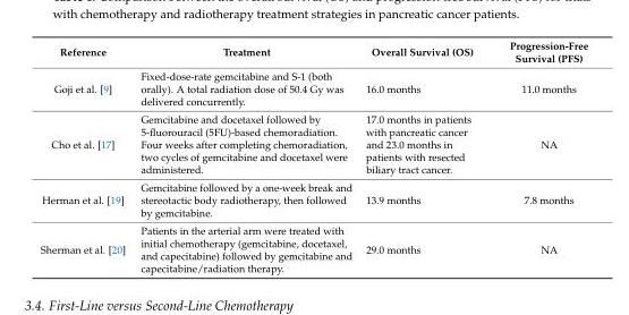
<table><thead><tr><td>Reference</td><td>Treatment</td><td>Overall Survival (OS)</td><td>Progression-Free Survival (PFS)</td></tr></thead><tbody><tr><td>Goji et al. [9]</td><td>Fixed-dose-rate gemcitabine and S-1 (both orally). A total radiation dose of 50.4 Gy was delivered concurrently.</td><td>16.0 months</td><td>11.0 months</td></tr><tr><td>Cho et al. [17]</td><td>Gemcitabine and docetaxel followed by 5-fluorouracil (5FU)-based chemoradiation. Four weeks after completing chemoradiation, two cycles of gemcitabine and docetaxel were administered.</td><td>17.0 months in patients with pancreatic cancer and 23.0 months in patients with resected biliary tract cancer.</td><td>NA</td></tr><tr><td>Herman et al. [19]</td><td>Gemcitabine followed by a one-week break and stereotactic body radiotherapy, then followed by gemcitabine.</td><td>13.9 months</td><td>7.8 months</td></tr><tr><td>Sherman et al. [20]</td><td>Patients in the arterial arm were treated with initial chemotherapy (gemcitabine, docetaxel, and capecitabine) followed by gemcitabine and capecitabine/radiation therapy.</td><td>29.0 months</td><td>NA</td></tr></tbody></table>